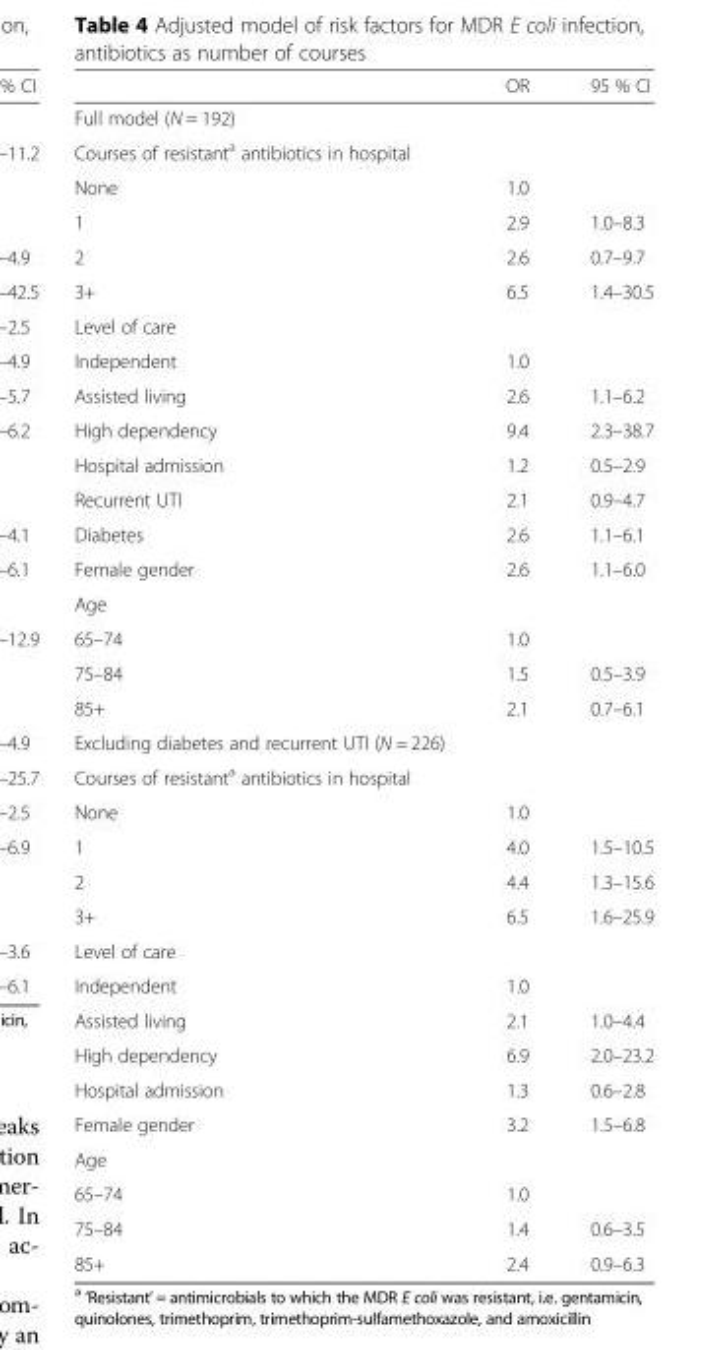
<table><thead><tr><td></td><td>OR</td><td>95 % CI</td></tr></thead><tbody><tr><td colspan="3">Full model (N = 192)</td></tr><tr><td colspan="3">Courses of resistant<sup>a</sup> antibiotics in hospital</td></tr><tr><td>None</td><td>1.0</td><td></td></tr><tr><td>1</td><td>2.9</td><td>1.0–8.3</td></tr><tr><td>2</td><td>2.6</td><td>0.7–9.7</td></tr><tr><td>3+</td><td>6.5</td><td>1.4–30.5</td></tr><tr><td colspan="3">Level of care</td></tr><tr><td>Independent</td><td>1.0</td><td></td></tr><tr><td>Assisted living</td><td>2.6</td><td>1.1–6.2</td></tr><tr><td>High dependency</td><td>9.4</td><td>2.3–38.7</td></tr><tr><td>Hospital admission</td><td>1.2</td><td>0.5–2.9</td></tr><tr><td>Recurrent UTI</td><td>2.1</td><td>0.9–4.7</td></tr><tr><td>Diabetes</td><td>2.6</td><td>1.1–6.1</td></tr><tr><td>Female gender</td><td>2.6</td><td>1.1–6.0</td></tr><tr><td colspan="3">Age</td></tr><tr><td>65–74</td><td>1.0</td><td></td></tr><tr><td>75–84</td><td>1.5</td><td>0.5–3.9</td></tr><tr><td>85+</td><td>2.1</td><td>0.7–6.1</td></tr><tr><td colspan="3">Excluding diabetes and recurrent UTI (N = 226)</td></tr><tr><td colspan="3">Courses of resistant<sup>a</sup> antibiotics in hospital</td></tr><tr><td>None</td><td>1.0</td><td></td></tr><tr><td>1</td><td>4.0</td><td>1.5–10.5</td></tr><tr><td>2</td><td>4.4</td><td>1.3–15.6</td></tr><tr><td>3+</td><td>6.5</td><td>1.6–25.9</td></tr><tr><td colspan="3">Level of care</td></tr><tr><td>Independent</td><td>1.0</td><td></td></tr><tr><td>Assisted living</td><td>2.1</td><td>1.0–4.4</td></tr><tr><td>High dependency</td><td>6.9</td><td>2.0–23.2</td></tr><tr><td>Hospital admission</td><td>1.3</td><td>0.6–2.8</td></tr><tr><td>Female gender</td><td>3.2</td><td>1.5–6.8</td></tr><tr><td colspan="3">Age</td></tr><tr><td>65–74</td><td>1.0</td><td></td></tr><tr><td>75–84</td><td>1.4</td><td>0.6–3.5</td></tr><tr><td>85+</td><td>2.4</td><td>0.9–6.3</td></tr></tbody></table>